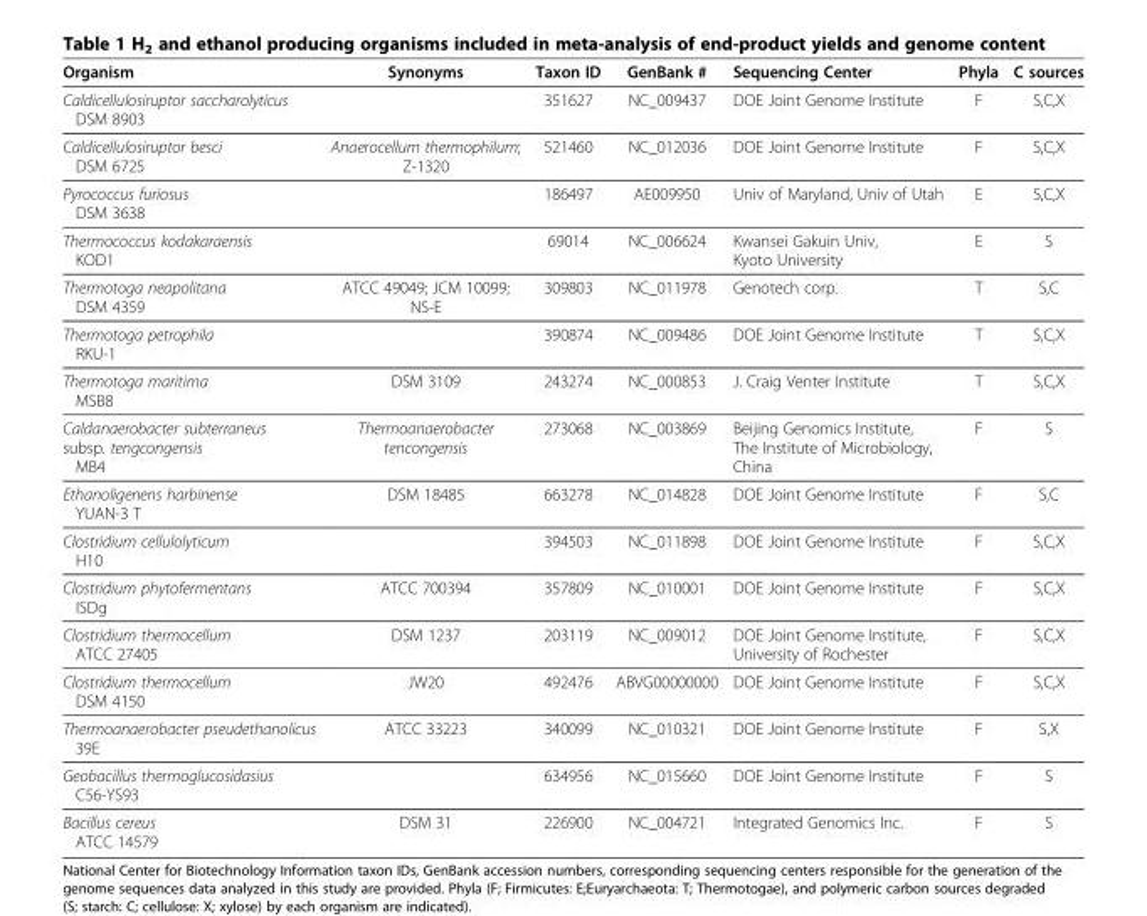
<table><thead><tr><td>Organism</td><td>Synonyms</td><td>Taxon ID</td><td>GenBank #</td><td>Sequencing Center</td><td>Phyla</td><td>C sources</td></tr></thead><tbody><tr><td>Caldicellulosiruptor saccharolyticus DSM 8903</td><td></td><td>351627</td><td>NC_009437</td><td>DOE Joint Genome Institute</td><td>F</td><td>S,C,X</td></tr><tr><td>Caldicellulosiruptor besci DSM 6725</td><td>Anaerocellum thermophilum; Z-1320</td><td>521460</td><td>NC_012036</td><td>DOE Joint Genome Institute</td><td>F</td><td>S,C,X</td></tr><tr><td>Pyrococcus furiosus DSM 3638</td><td></td><td>186497</td><td>AE009950</td><td>Univ of Maryland, Univ of Utah</td><td>E</td><td>S,C,X</td></tr><tr><td>Thermococcus kodakaraensis KOD1</td><td></td><td>69014</td><td>NC_006624</td><td>Kwansei Gakuin Univ, Kyoto University</td><td>E</td><td>S</td></tr><tr><td>Thermotoga neapolitana DSM 4359</td><td>ATCC 49049; JCM 10099; NS-E</td><td>309803</td><td>NC_011978</td><td>Genotech corp.</td><td>T</td><td>S,C</td></tr><tr><td>Thermotoga petrophila RKU-1</td><td></td><td>390874</td><td>NC_009486</td><td>DOE Joint Genome Institute</td><td>T</td><td>S,C,X</td></tr><tr><td>Thermotoga maritima MSB8</td><td>DSM 3109</td><td>243274</td><td>NC_000853</td><td>J. Craig Venter Institute</td><td>T</td><td>S,C,X</td></tr><tr><td>Caldanaerobacter subterraneus subsp. tengcongensis MB4</td><td>Thermoanaerobacter tencongensis</td><td>273068</td><td>NC_003869</td><td>Beijing Genomics Institute, The Institute of Microbiology, China</td><td>F</td><td>S</td></tr><tr><td>Ethanoligenens harbinense YUAN-3 T</td><td>DSM 18485</td><td>663278</td><td>NC_014828</td><td>DOE Joint Genome Institute</td><td>F</td><td>S,C</td></tr><tr><td>Clostridium cellulolyticum H10</td><td></td><td>394503</td><td>NC_011898</td><td>DOE Joint Genome Institute</td><td>F</td><td>S,C,X</td></tr><tr><td>Clostridium phytofermentans ISDg</td><td>ATCC 700394</td><td>357809</td><td>NC_010001</td><td>DOE Joint Genome Institute</td><td>F</td><td>S,C,X</td></tr><tr><td>Clostridium thermocellum ATCC 27405</td><td>DSM 1237</td><td>203119</td><td>NC_009012</td><td>DOE Joint Genome Institute, University of Rochester</td><td>F</td><td>S,C,X</td></tr><tr><td>Clostridium thermocellum DSM 4150</td><td>JW20</td><td>492476</td><td>ABVG00000000</td><td>DOE Joint Genome Institute</td><td>F</td><td>S,C,X</td></tr><tr><td>Thermoanaerobacter pseudethanolicus 39E</td><td>ATCC 33223</td><td>340099</td><td>NC_010321</td><td>DOE Joint Genome Institute</td><td>F</td><td>S,X</td></tr><tr><td>Geobacillus thermoglucosidasius C56-YS93</td><td></td><td>634956</td><td>NC_015660</td><td>DOE Joint Genome Institute</td><td>F</td><td>S</td></tr><tr><td>Bacillus cereus ATCC 14579</td><td>DSM 31</td><td>226900</td><td>NC_004721</td><td>Integrated Genomics Inc.</td><td>F</td><td>S</td></tr></tbody></table>